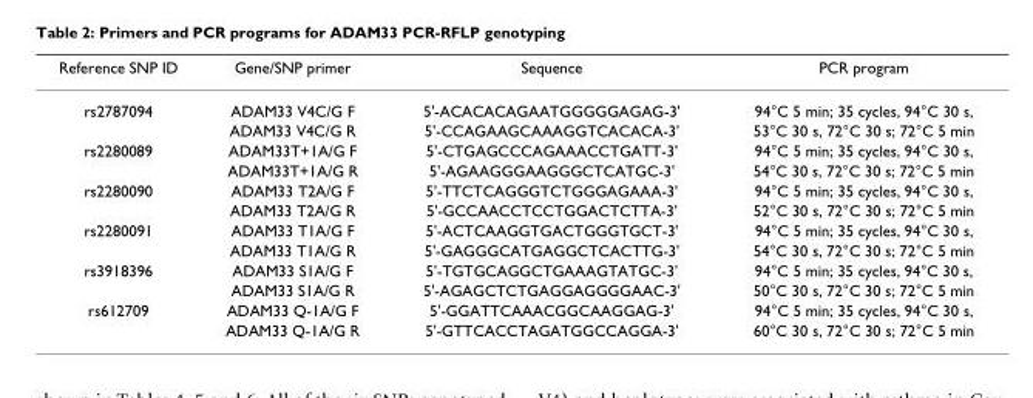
<table><thead><tr><td>Reference SNP ID</td><td>Gene/SNP primer</td><td>Sequence</td><td>PCR program</td></tr></thead><tbody><tr><td rowspan="2">rs2787094</td><td>ADAM33 V4C/G F</td><td>5&#x27;-ACACACAGAATGGGGGAGAG-3&#x27;</td><td>94°C 5 min; 35 cycles, 94°C 30 s,</td></tr><tr><td>ADAM33 V4C/G R</td><td>5&#x27;-CCAGAAGCAAAGGTCACACA-3&#x27;</td><td>53°C 30 s, 72°C 30 s; 72°C 5 min</td></tr><tr><td rowspan="2">rs2280089</td><td>ADAM33T+1A/G F</td><td>5&#x27;-CTGAGCCCAGAAACCTGATT-3&#x27;</td><td>94°C 5 min; 35 cycles, 94°C 30 s,</td></tr><tr><td>ADAM33T+1A/G R</td><td>5&#x27;-AGAAGGGAAGGGCTCATGC-3&#x27;</td><td>54°C 30 s, 72°C 30 s; 72°C 5 min</td></tr><tr><td rowspan="2">rs2280090</td><td>ADAM33 T2A/G F</td><td>5&#x27;-TTCTCAGGGTCTGGGAGAAA-3&#x27;</td><td>94°C 5 min; 35 cycles, 94°C 30 s,</td></tr><tr><td>ADAM33 T2A/G R</td><td>5&#x27;-GCCAACCTCCTGGACTCTTA-3&#x27;</td><td>52°C 30 s, 72°C 30 s; 72°C 5 min</td></tr><tr><td rowspan="2">rs2280091</td><td>ADAM33 T1A/G F</td><td>5&#x27;-ACTCAAGGTGACTGGGTGCT-3&#x27;</td><td>94°C 5 min; 35 cycles, 94°C 30 s,</td></tr><tr><td>ADAM33 T1A/G R</td><td>5&#x27;-GAGGGCATGAGGCTCACTTG-3&#x27;</td><td>54°C 30 s, 72°C 30 s; 72°C 5 min</td></tr><tr><td rowspan="2">rs3918396</td><td>ADAM33 S1A/G F</td><td>5&#x27;-TGTGCAGGCTGAAAGTATGC-3&#x27;</td><td>94°C 5 min; 35 cycles, 94°C 30 s,</td></tr><tr><td>ADAM33 S1A/G R</td><td>5&#x27;-AGAGCTCTGAGGAGGGGAAC-3&#x27;</td><td>50°C 30 s, 72°C 30 s; 72°C 5 min</td></tr><tr><td rowspan="2">rs612709</td><td>ADAM33 Q-1A/G F</td><td>5&#x27;-GGATTCAAACGGCAAGGAG-3&#x27;</td><td>94°C 5 min; 35 cycles, 94°C 30 s,</td></tr><tr><td>ADAM33 Q-1A/G R</td><td>5&#x27;-GTTCACCTAGATGGCCAGGA-3&#x27;</td><td>60°C 30 s, 72°C 30 s; 72°C 5 min</td></tr></tbody></table>